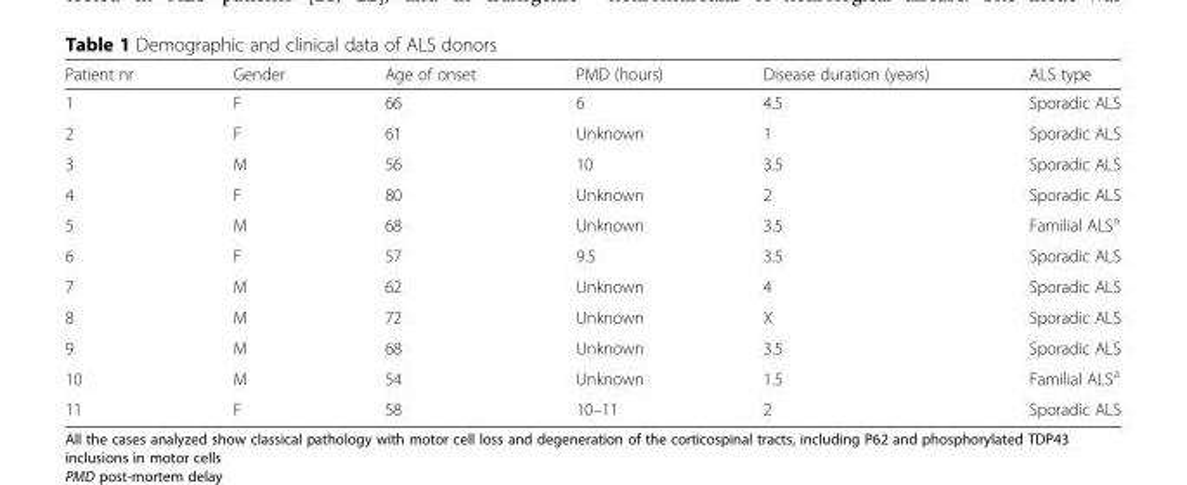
<table><thead><tr><td>Patient nr</td><td>Gender</td><td>Age of onset</td><td>PMD (hours)</td><td>Disease duration (years)</td><td>ALS type</td></tr></thead><tbody><tr><td>1</td><td>F</td><td>66</td><td>6</td><td>4.5</td><td>Sporadic ALS</td></tr><tr><td>2</td><td>F</td><td>61</td><td>Unknown</td><td>1</td><td>Sporadic ALS</td></tr><tr><td>3</td><td>M</td><td>56</td><td>10</td><td>3.5</td><td>Sporadic ALS</td></tr><tr><td>4</td><td>F</td><td>80</td><td>Unknown</td><td>2</td><td>Sporadic ALS</td></tr><tr><td>5</td><td>M</td><td>68</td><td>Unknown</td><td>3.5</td><td>Familial ALS<sup>a</sup></td></tr><tr><td>6</td><td>F</td><td>57</td><td>9.5</td><td>3.5</td><td>Sporadic ALS</td></tr><tr><td>7</td><td>M</td><td>62</td><td>Unknown</td><td>4</td><td>Sporadic ALS</td></tr><tr><td>8</td><td>M</td><td>72</td><td>Unknown</td><td>X</td><td>Sporadic ALS</td></tr><tr><td>9</td><td>M</td><td>68</td><td>Unknown</td><td>3.5</td><td>Sporadic ALS</td></tr><tr><td>10</td><td>M</td><td>54</td><td>Unknown</td><td>1.5</td><td>Familial ALS<sup>a</sup></td></tr><tr><td>11</td><td>F</td><td>58</td><td>10–11</td><td>2</td><td>Sporadic ALS</td></tr></tbody></table>